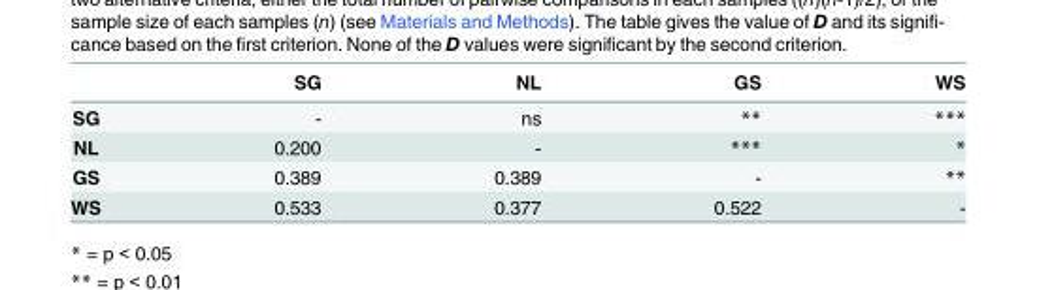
<table><thead><tr><td></td><td>SG</td><td>NL</td><td>GS</td><td>WS</td></tr></thead><tbody><tr><td>SG</td><td>-</td><td>ns</td><td>**</td><td>***</td></tr><tr><td>NL</td><td>0.200</td><td>-</td><td>***</td><td>*</td></tr><tr><td>GS</td><td>0.389</td><td>0.389</td><td>-</td><td>**</td></tr><tr><td>WS</td><td>0.533</td><td>0.377</td><td>0.522</td><td>-</td></tr></tbody></table>